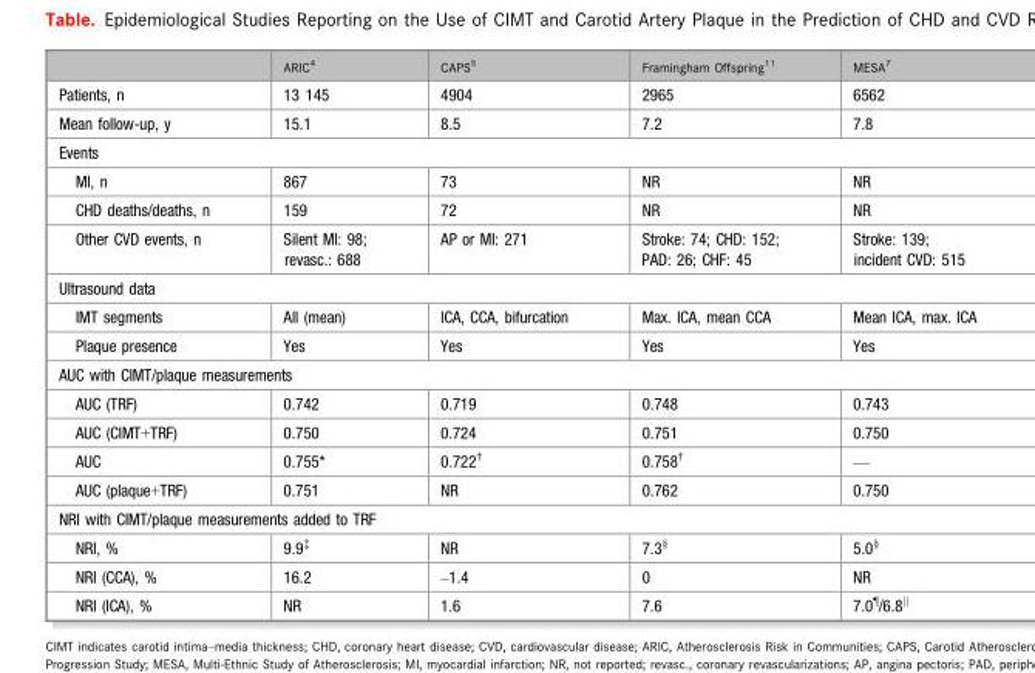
<table><thead><tr><td></td><td>ARIC<sup>4</sup></td><td>CAPS<sup>5</sup></td><td>Framingham Offspring<sup>11</sup></td><td>MESA<sup>7</sup></td></tr></thead><tbody><tr><td>Patients, n</td><td>13 145</td><td>4904</td><td>2965</td><td>6562</td></tr><tr><td>Mean follow-up, y</td><td>15.1</td><td>8.5</td><td>7.2</td><td>7.8</td></tr><tr><td colspan="5">Events</td></tr><tr><td>MI, n</td><td>867</td><td>73</td><td>NR</td><td>NR</td></tr><tr><td>CHD deaths/deaths, n</td><td>159</td><td>72</td><td>NR</td><td>NR</td></tr><tr><td>Other CVD events, n</td><td>Silent MI: 98; revasc.: 688</td><td>AP or MI: 271</td><td>Stroke: 74; CHD: 152; PAD: 26; CHF: 45</td><td>Stroke: 139; incident CVD: 515</td></tr><tr><td colspan="5">Ultrasound data</td></tr><tr><td>IMT segments</td><td>All (mean)</td><td>ICA, CCA, bifurcation</td><td>Max. ICA, mean CCA</td><td>Mean ICA, max. ICA</td></tr><tr><td>Plaque presence</td><td>Yes</td><td>Yes</td><td>Yes</td><td>Yes</td></tr><tr><td colspan="5">AUC with CIMT/plaque measurements</td></tr><tr><td>AUC (TRF)</td><td>0.742</td><td>0.719</td><td>0.748</td><td>0.743</td></tr><tr><td>AUC (CIMT+TRF)</td><td>0.750</td><td>0.724</td><td>0.751</td><td>0.750</td></tr><tr><td>AUC</td><td>0.755*</td><td>0.722†</td><td>0.758†</td><td>—</td></tr><tr><td>AUC (plaque+TRF)</td><td>0.751</td><td>NR</td><td>0.762</td><td>0.750</td></tr><tr><td colspan="5">NRI with CIMT/plaque measurements added to TRF</td></tr><tr><td>NRI, %</td><td>9.9‡</td><td>NR</td><td>7.3§</td><td>5.0§</td></tr><tr><td>NRI (CCA), %</td><td>16.2</td><td>–1.4</td><td>0</td><td>NR</td></tr><tr><td>NRI (ICA), %</td><td>NR</td><td>1.6</td><td>7.6</td><td>7.0¶/6.8k</td></tr></tbody></table>